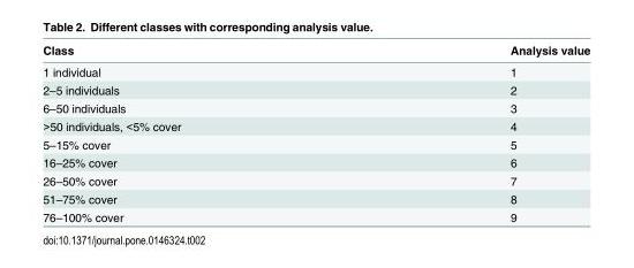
<table><thead><tr><td>Class</td><td>Analysis value</td></tr></thead><tbody><tr><td>1 individual</td><td>1</td></tr><tr><td>2–5 individuals</td><td>2</td></tr><tr><td>6–50 individuals</td><td>3</td></tr><tr><td>&gt;50 individuals, &lt;5% cover</td><td>4</td></tr><tr><td>5–15% cover</td><td>5</td></tr><tr><td>16–25% cover</td><td>6</td></tr><tr><td>26–50% cover</td><td>7</td></tr><tr><td>51–75% cover</td><td>8</td></tr><tr><td>76–100% cover</td><td>9</td></tr></tbody></table>